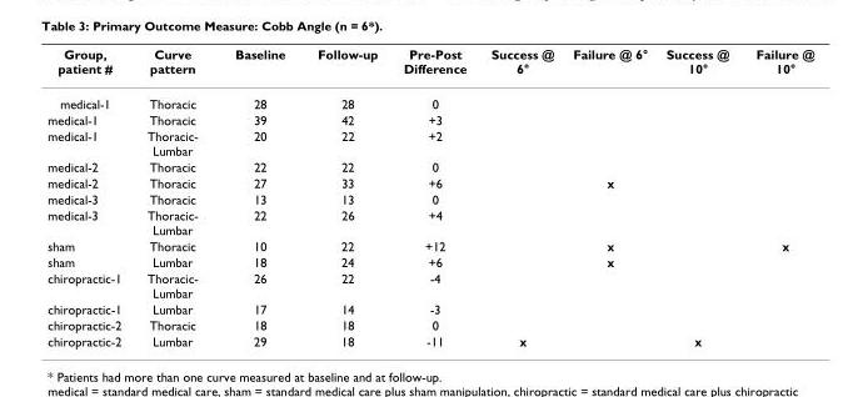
<table><thead><tr><td>Group, patient #</td><td>Curve pattern</td><td>Baseline</td><td>Follow-up</td><td>Pre-Post Difference</td><td>Success @ 6°</td><td>Failure @ 6°</td><td>Success @ 10°</td><td>Failure @ 10°</td></tr></thead><tbody><tr><td>medical-1</td><td>Thoracic</td><td>28</td><td>28</td><td>0</td><td></td><td></td><td></td><td></td></tr><tr><td>medical-1</td><td>Thoracic</td><td>39</td><td>42</td><td>+3</td><td></td><td></td><td></td><td></td></tr><tr><td>medical-1</td><td>Thoracic- Lumbar</td><td>20</td><td>22</td><td>+2</td><td></td><td></td><td></td><td></td></tr><tr><td>medical-2</td><td>Thoracic</td><td>22</td><td>22</td><td>0</td><td></td><td></td><td></td><td></td></tr><tr><td>medical-2</td><td>Thoracic</td><td>27</td><td>33</td><td>+6</td><td></td><td>x</td><td></td><td></td></tr><tr><td>medical-3</td><td>Thoracic</td><td>13</td><td>13</td><td>0</td><td></td><td></td><td></td><td></td></tr><tr><td>medical-3</td><td>Thoracic- Lumbar</td><td>22</td><td>26</td><td>+4</td><td></td><td></td><td></td><td></td></tr><tr><td>sham</td><td>Thoracic</td><td>10</td><td>22</td><td>+12</td><td></td><td>x</td><td></td><td>x</td></tr><tr><td>sham</td><td>Lumbar</td><td>18</td><td>24</td><td>+6</td><td></td><td>x</td><td></td><td></td></tr><tr><td>chiropractic-1</td><td>Thoracic- Lumbar</td><td>26</td><td>22</td><td>-4</td><td></td><td></td><td></td><td></td></tr><tr><td>chiropractic-1</td><td>Lumbar</td><td>17</td><td>14</td><td>-3</td><td></td><td></td><td></td><td></td></tr><tr><td>chiropractic-2</td><td>Thoracic</td><td>18</td><td>18</td><td>0</td><td></td><td></td><td></td><td></td></tr><tr><td>chiropractic-2</td><td>Lumbar</td><td>29</td><td>18</td><td>-11</td><td>x</td><td></td><td>x</td><td></td></tr></tbody></table>